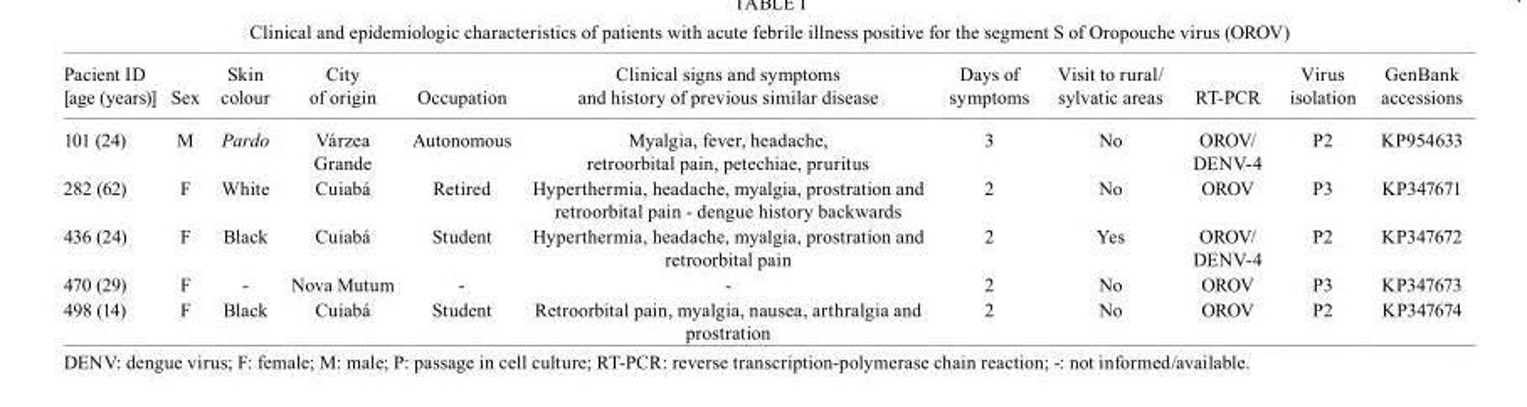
<table><thead><tr><td>Pacient ID [age (years)]</td><td>Sex</td><td>Skin colour</td><td>City of origin</td><td>Occupation</td><td>Clinical signs and symptoms and history of previous similar disease</td><td>Days of symptoms</td><td>Visit to rural/ sylvatic areas</td><td>RT-PCR</td><td>Virus isolation</td><td>GenBank accessions</td></tr></thead><tbody><tr><td>101 (24)</td><td>M</td><td>Pardo</td><td>Várzea Grande</td><td>Autonomous</td><td>Myalgia, fever, headache, retroorbital pain, petechiae, pruritus</td><td>3</td><td>No</td><td>OROV/ DENV-4</td><td>P2</td><td>KP954633</td></tr><tr><td>282 (62)</td><td>F</td><td>White</td><td>Cuiabá</td><td>Retired</td><td>Hyperthermia, headache, myalgia, prostration and retroorbital pain - dengue history backwards</td><td>2</td><td>No</td><td>OROV</td><td>P3</td><td>KP347671</td></tr><tr><td>436 (24)</td><td>F</td><td>Black</td><td>Cuiabá</td><td>Student</td><td>Hyperthermia, headache, myalgia, prostration and retroorbital pain</td><td>2</td><td>Yes</td><td>OROV/ DENV-4</td><td>P2</td><td>KP347672</td></tr><tr><td>470 (29)</td><td>F</td><td>-</td><td>Nova Mutum</td><td>-</td><td>-</td><td>2</td><td>No</td><td>OROV</td><td>P3</td><td>KP347673</td></tr><tr><td>498 (14)</td><td>F</td><td>Black</td><td>Cuiabá</td><td>Student</td><td>Retroorbital pain, myalgia, nausea, arthralgia and prostration</td><td>2</td><td>No</td><td>OROV</td><td>P2</td><td>KP347674</td></tr></tbody></table>